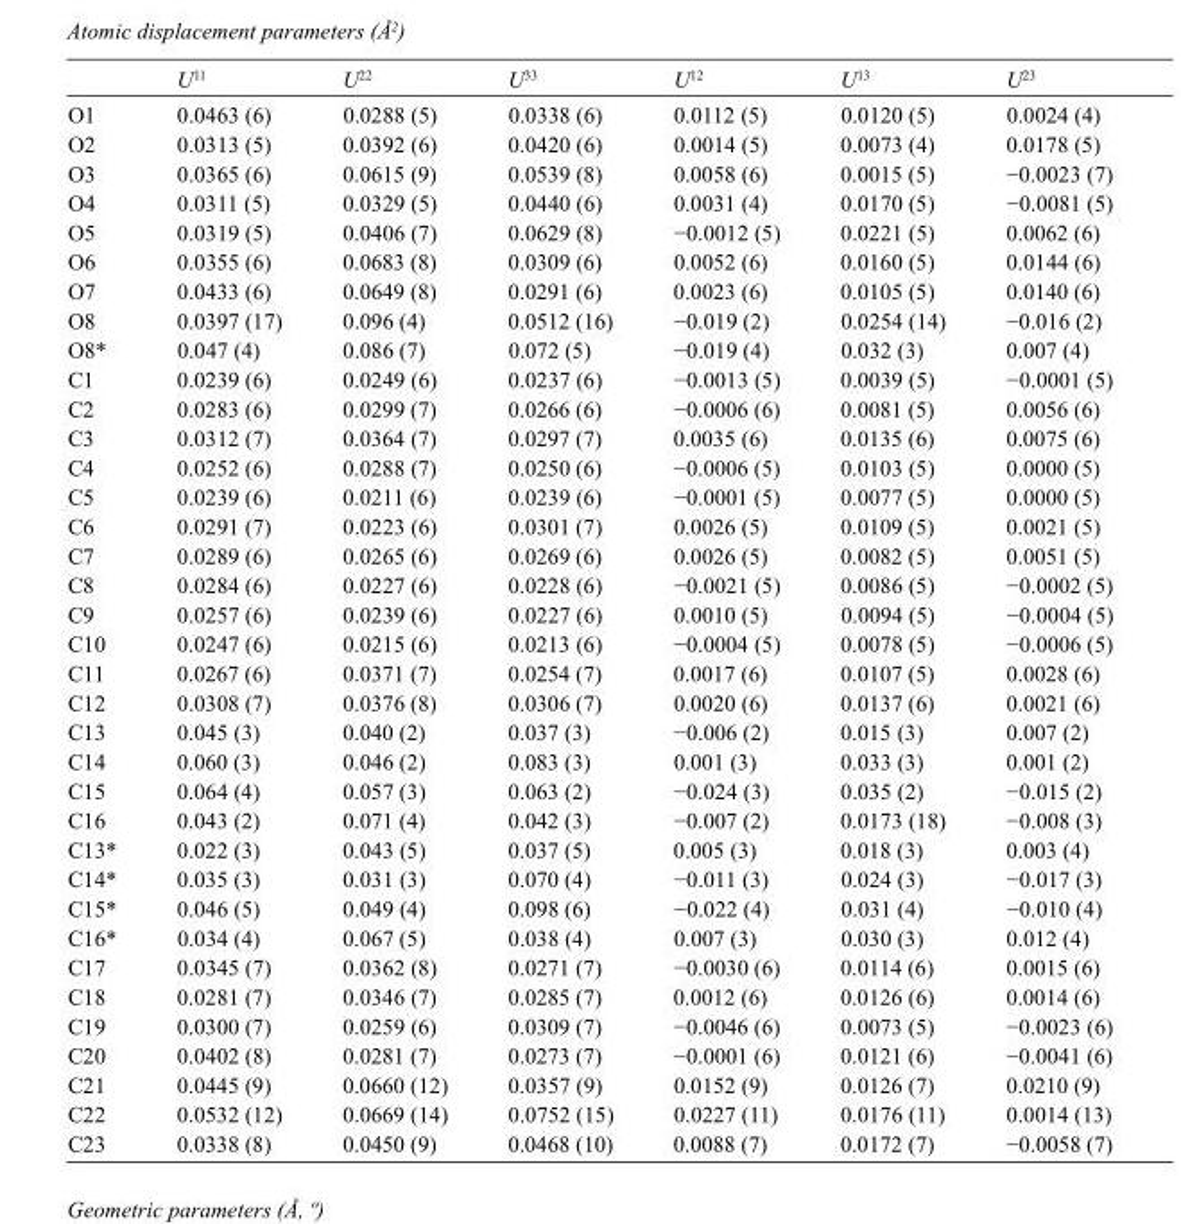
<table><thead><tr><td></td><td>U<sup>11</sup></td><td>U<sup>22</sup></td><td>U<sup>33</sup></td><td>U<sup>12</sup></td><td>U<sup>13</sup></td><td>U<sup>23</sup></td></tr></thead><tbody><tr><td>O1</td><td>0.0463 (6)</td><td>0.0288 (5)</td><td>0.0338 (6)</td><td>0.0112 (5)</td><td>0.0120 (5)</td><td>0.0024 (4)</td></tr><tr><td>O2</td><td>0.0313 (5)</td><td>0.0392 (6)</td><td>0.0420 (6)</td><td>0.0014 (5)</td><td>0.0073 (4)</td><td>0.0178 (5)</td></tr><tr><td>O3</td><td>0.0365 (6)</td><td>0.0615 (9)</td><td>0.0539 (8)</td><td>0.0058 (6)</td><td>0.0015 (5)</td><td>−0.0023 (7)</td></tr><tr><td>O4</td><td>0.0311 (5)</td><td>0.0329 (5)</td><td>0.0440 (6)</td><td>0.0031 (4)</td><td>0.0170 (5)</td><td>−0.0081 (5)</td></tr><tr><td>O5</td><td>0.0319 (5)</td><td>0.0406 (7)</td><td>0.0629 (8)</td><td>−0.0012 (5)</td><td>0.0221 (5)</td><td>0.0062 (6)</td></tr><tr><td>O6</td><td>0.0355 (6)</td><td>0.0683 (8)</td><td>0.0309 (6)</td><td>0.0052 (6)</td><td>0.0160 (5)</td><td>0.0144 (6)</td></tr><tr><td>O7</td><td>0.0433 (6)</td><td>0.0649 (8)</td><td>0.0291 (6)</td><td>0.0023 (6)</td><td>0.0105 (5)</td><td>0.0140 (6)</td></tr><tr><td>O8</td><td>0.0397 (17)</td><td>0.096 (4)</td><td>0.0512 (16)</td><td>−0.019 (2)</td><td>0.0254 (14)</td><td>−0.016 (2)</td></tr><tr><td>O8*</td><td>0.047 (4)</td><td>0.086 (7)</td><td>0.072 (5)</td><td>−0.019 (4)</td><td>0.032 (3)</td><td>0.007 (4)</td></tr><tr><td>C1</td><td>0.0239 (6)</td><td>0.0249 (6)</td><td>0.0237 (6)</td><td>−0.0013 (5)</td><td>0.0039 (5)</td><td>−0.0001 (5)</td></tr><tr><td>C2</td><td>0.0283 (6)</td><td>0.0299 (7)</td><td>0.0266 (6)</td><td>−0.0006 (6)</td><td>0.0081 (5)</td><td>0.0056 (6)</td></tr><tr><td>C3</td><td>0.0312 (7)</td><td>0.0364 (7)</td><td>0.0297 (7)</td><td>0.0035 (6)</td><td>0.0135 (6)</td><td>0.0075 (6)</td></tr><tr><td>C4</td><td>0.0252 (6)</td><td>0.0288 (7)</td><td>0.0250 (6)</td><td>−0.0006 (5)</td><td>0.0103 (5)</td><td>0.0000 (5)</td></tr><tr><td>C5</td><td>0.0239 (6)</td><td>0.0211 (6)</td><td>0.0239 (6)</td><td>−0.0001 (5)</td><td>0.0077 (5)</td><td>0.0000 (5)</td></tr><tr><td>C6</td><td>0.0291 (7)</td><td>0.0223 (6)</td><td>0.0301 (7)</td><td>0.0026 (5)</td><td>0.0109 (5)</td><td>0.0021 (5)</td></tr><tr><td>C7</td><td>0.0289 (6)</td><td>0.0265 (6)</td><td>0.0269 (6)</td><td>0.0026 (5)</td><td>0.0082 (5)</td><td>0.0051 (5)</td></tr><tr><td>C8</td><td>0.0284 (6)</td><td>0.0227 (6)</td><td>0.0228 (6)</td><td>−0.0021 (5)</td><td>0.0086 (5)</td><td>−0.0002 (5)</td></tr><tr><td>C9</td><td>0.0257 (6)</td><td>0.0239 (6)</td><td>0.0227 (6)</td><td>0.0010 (5)</td><td>0.0094 (5)</td><td>−0.0004 (5)</td></tr><tr><td>C10</td><td>0.0247 (6)</td><td>0.0215 (6)</td><td>0.0213 (6)</td><td>−0.0004 (5)</td><td>0.0078 (5)</td><td>−0.0006 (5)</td></tr><tr><td>C11</td><td>0.0267 (6)</td><td>0.0371 (7)</td><td>0.0254 (7)</td><td>0.0017 (6)</td><td>0.0107 (5)</td><td>0.0028 (6)</td></tr><tr><td>C12</td><td>0.0308 (7)</td><td>0.0376 (8)</td><td>0.0306 (7)</td><td>0.0020 (6)</td><td>0.0137 (6)</td><td>0.0021 (6)</td></tr><tr><td>C13</td><td>0.045 (3)</td><td>0.040 (2)</td><td>0.037 (3)</td><td>−0.006 (2)</td><td>0.015 (3)</td><td>0.007 (2)</td></tr><tr><td>C14</td><td>0.060 (3)</td><td>0.046 (2)</td><td>0.083 (3)</td><td>0.001 (3)</td><td>0.033 (3)</td><td>0.001 (2)</td></tr><tr><td>C15</td><td>0.064 (4)</td><td>0.057 (3)</td><td>0.063 (2)</td><td>−0.024 (3)</td><td>0.035 (2)</td><td>−0.015 (2)</td></tr><tr><td>C16</td><td>0.043 (2)</td><td>0.071 (4)</td><td>0.042 (3)</td><td>−0.007 (2)</td><td>0.0173 (18)</td><td>−0.008 (3)</td></tr><tr><td>C13*</td><td>0.022 (3)</td><td>0.043 (5)</td><td>0.037 (5)</td><td>0.005 (3)</td><td>0.018 (3)</td><td>0.003 (4)</td></tr><tr><td>C14*</td><td>0.035 (3)</td><td>0.031 (3)</td><td>0.070 (4)</td><td>−0.011 (3)</td><td>0.024 (3)</td><td>−0.017 (3)</td></tr><tr><td>C15*</td><td>0.046 (5)</td><td>0.049 (4)</td><td>0.098 (6)</td><td>−0.022 (4)</td><td>0.031 (4)</td><td>−0.010 (4)</td></tr><tr><td>C16*</td><td>0.034 (4)</td><td>0.067 (5)</td><td>0.038 (4)</td><td>0.007 (3)</td><td>0.030 (3)</td><td>0.012 (4)</td></tr><tr><td>C17</td><td>0.0345 (7)</td><td>0.0362 (8)</td><td>0.0271 (7)</td><td>−0.0030 (6)</td><td>0.0114 (6)</td><td>0.0015 (6)</td></tr><tr><td>C18</td><td>0.0281 (7)</td><td>0.0346 (7)</td><td>0.0285 (7)</td><td>0.0012 (6)</td><td>0.0126 (6)</td><td>0.0014 (6)</td></tr><tr><td>C19</td><td>0.0300 (7)</td><td>0.0259 (6)</td><td>0.0309 (7)</td><td>−0.0046 (6)</td><td>0.0073 (5)</td><td>−0.0023 (6)</td></tr><tr><td>C20</td><td>0.0402 (8)</td><td>0.0281 (7)</td><td>0.0273 (7)</td><td>−0.0001 (6)</td><td>0.0121 (6)</td><td>−0.0041 (6)</td></tr><tr><td>C21</td><td>0.0445 (9)</td><td>0.0660 (12)</td><td>0.0357 (9)</td><td>0.0152 (9)</td><td>0.0126 (7)</td><td>0.0210 (9)</td></tr><tr><td>C22</td><td>0.0532 (12)</td><td>0.0669 (14)</td><td>0.0752 (15)</td><td>0.0227 (11)</td><td>0.0176 (11)</td><td>0.0014 (13)</td></tr><tr><td>C23</td><td>0.0338 (8)</td><td>0.0450 (9)</td><td>0.0468 (10)</td><td>0.0088 (7)</td><td>0.0172 (7)</td><td>−0.0058 (7)</td></tr></tbody></table>